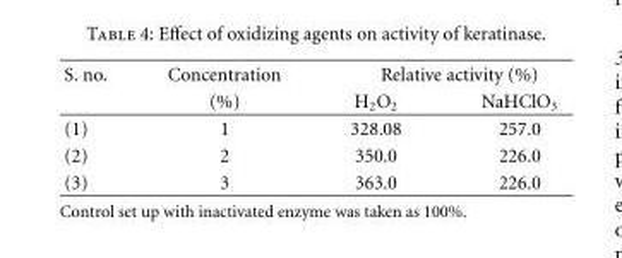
<table><thead><tr><td rowspan="2">S. no.</td><td rowspan="2">Concentration (%)</td><td colspan="2">Relative activity (%)</td></tr><tr><td>H<sub>2</sub>O<sub>2</sub></td><td>NaHClO<sub>3</sub></td></tr></thead><tbody><tr><td>(1)</td><td>1</td><td>328.08</td><td>257.0</td></tr><tr><td>(2)</td><td>2</td><td>350.0</td><td>226.0</td></tr><tr><td>(3)</td><td>3</td><td>363.0</td><td>226.0</td></tr></tbody></table>